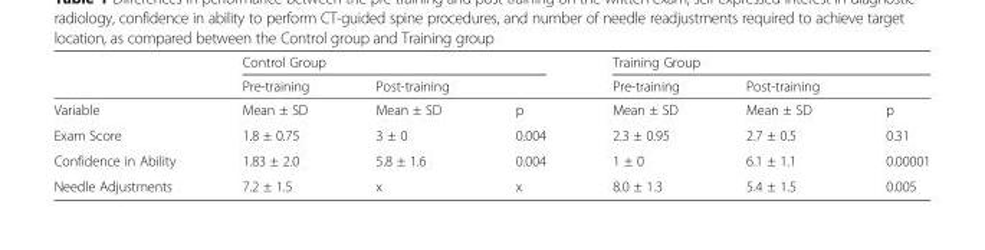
<table><thead><tr><td rowspan="2"></td><td colspan="3">Control Group</td><td colspan="3">Training Group</td></tr><tr><td>Pre-training</td><td>Post-training</td><td></td><td>Pre-training</td><td>Post-training</td><td></td></tr></thead><tbody><tr><td>Variable</td><td>Mean ± SD</td><td>Mean ± SD</td><td>p</td><td>Mean ± SD</td><td>Mean ± SD</td><td>p</td></tr><tr><td>Exam Score</td><td>1.8 ± 0.75</td><td>3 ± 0</td><td>0.004</td><td>2.3 ± 0.95</td><td>2.7 ± 0.5</td><td>0.31</td></tr><tr><td>Confidence in Ability</td><td>1.83 ± 2.0</td><td>5.8 ± 1.6</td><td>0.004</td><td>1 ± 0</td><td>6.1 ± 1.1</td><td>0.00001</td></tr><tr><td>Needle Adjustments</td><td>7.2 ± 1.5</td><td>x</td><td>x</td><td>8.0 ± 1.3</td><td>5.4 ± 1.5</td><td>0.005</td></tr></tbody></table>